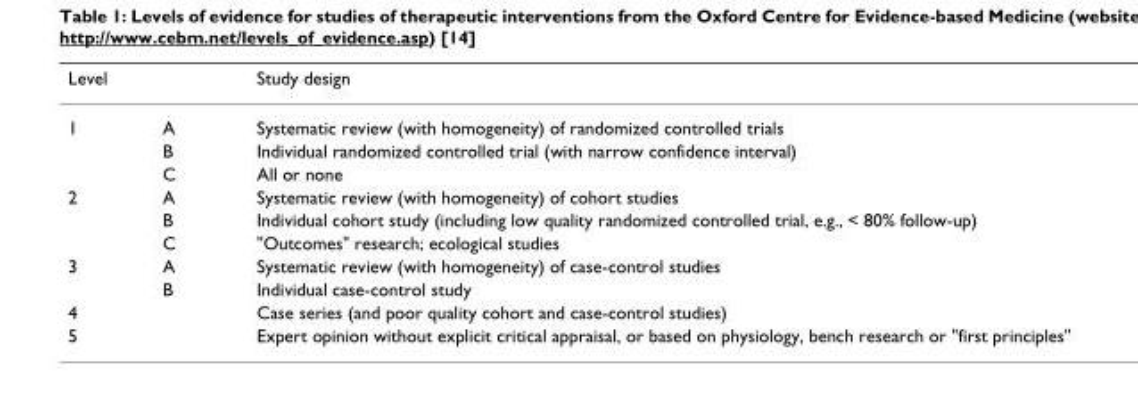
<table><thead><tr><td colspan="2">Level</td><td rowspan="2">Study design Systematic review (with homogeneity) of randomized controlled trials</td></tr><tr><td>1</td><td>A</td></tr></thead><tbody><tr><td></td><td>B</td><td>Individual randomized controlled trial (with narrow confidence interval)</td></tr><tr><td></td><td>C</td><td>All or none</td></tr><tr><td rowspan="3">2</td><td>A</td><td>Systematic review (with homogeneity) of cohort studies</td></tr><tr><td>B</td><td>Individual cohort study (including low quality randomized controlled trial, e.g., &lt; 80% follow-up)</td></tr><tr><td>C</td><td>&quot;Outcomes&quot; research; ecological studies</td></tr><tr><td rowspan="2">3</td><td>A</td><td>Systematic review (with homogeneity) of case-control studies</td></tr><tr><td>B</td><td>Individual case-control study</td></tr><tr><td>4</td><td></td><td>Case series (and poor quality cohort and case-control studies)</td></tr><tr><td>5</td><td></td><td>Expert opinion without explicit critical appraisal, or based on physiology, bench research or &quot;first principles&quot;</td></tr></tbody></table>